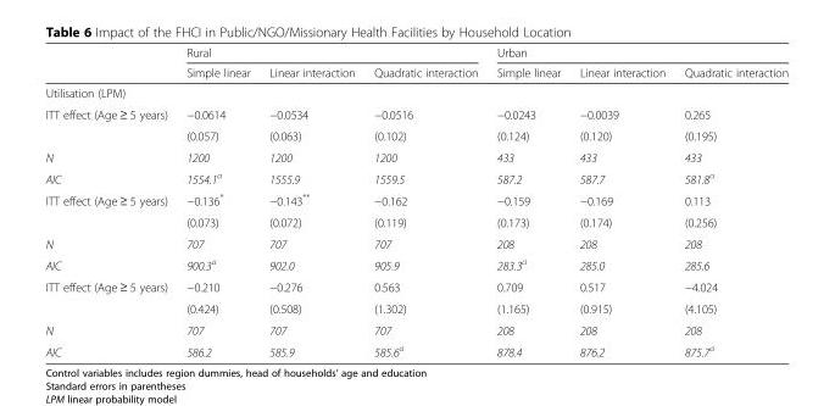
<table><thead><tr><td rowspan="2"></td><td colspan="3">Rural</td><td colspan="3">Urban</td></tr><tr><td>Simple linear</td><td>Linear interaction</td><td>Quadratic interaction</td><td>Simple linear</td><td>Linear interaction</td><td>Quadratic interaction</td></tr></thead><tbody><tr><td colspan="7">Utilisation (LPM)</td></tr><tr><td rowspan="2">ITT effect (Age ≥ 5 years)</td><td>−0.0614</td><td>−0.0534</td><td>−0.0516</td><td>−0.0243</td><td>−0.0039</td><td>0.265</td></tr><tr><td>(0.057)</td><td>(0.063)</td><td>(0.102)</td><td>(0.124)</td><td>(0.120)</td><td>(0.195)</td></tr><tr><td>N</td><td>1200</td><td>1200</td><td>1200</td><td>433</td><td>433</td><td>433</td></tr><tr><td>AIC</td><td>1554.1<sup>a</sup></td><td>1555.9</td><td>1559.5</td><td>587.2</td><td>587.7</td><td>581.8<sup>a</sup></td></tr><tr><td rowspan="2">ITT effect (Age ≥ 5 years)</td><td>−0.136*</td><td>−0.143**</td><td>−0.162</td><td>−0.159</td><td>−0.169</td><td>0.113</td></tr><tr><td>(0.073)</td><td>(0.072)</td><td>(0.119)</td><td>(0.173)</td><td>(0.174)</td><td>(0.256)</td></tr><tr><td>N</td><td>707</td><td>707</td><td>707</td><td>208</td><td>208</td><td>208</td></tr><tr><td>AIC</td><td>900.3<sup>a</sup></td><td>902.0</td><td>905.9</td><td>283.3<sup>a</sup></td><td>285.0</td><td>285.6</td></tr><tr><td rowspan="2">ITT effect (Age ≥ 5 years)</td><td>−0.210</td><td>−0.276</td><td>0.563</td><td>0.709</td><td>0.517</td><td>−4.024</td></tr><tr><td>(0.424)</td><td>(0.508)</td><td>(1.302)</td><td>(1.165)</td><td>(0.915)</td><td>(4.105)</td></tr><tr><td>N</td><td>707</td><td>707</td><td>707</td><td>208</td><td>208</td><td>208</td></tr><tr><td>AIC</td><td>586.2</td><td>585.9</td><td>585.6<sup>a</sup></td><td>878.4</td><td>876.2</td><td>875.7<sup>a</sup></td></tr></tbody></table>